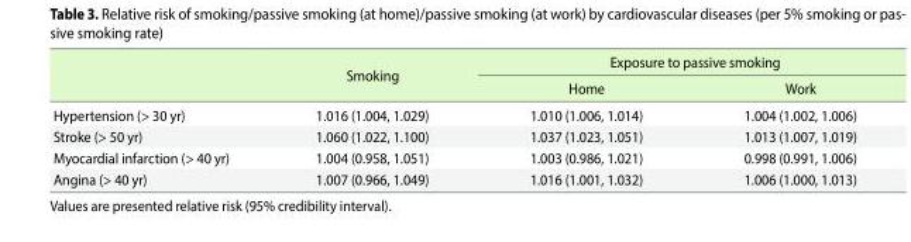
<table><thead><tr><td rowspan="2"></td><td rowspan="2">Smoking</td><td colspan="2">Exposure to passive smoking</td></tr><tr><td>Home</td><td>Work</td></tr></thead><tbody><tr><td>Hypertension (&gt; 30 yr)</td><td>1.016 (1.004, 1.029)</td><td>1.010 (1.006, 1.014)</td><td>1.004 (1.002, 1.006)</td></tr><tr><td>Stroke (&gt; 50 yr)</td><td>1.060 (1.022, 1.100)</td><td>1.037 (1.023, 1.051)</td><td>1.013 (1.007, 1.019)</td></tr><tr><td>Myocardial infarction (&gt; 40 yr)</td><td>1.004 (0.958, 1.051)</td><td>1.003 (0.986, 1.021)</td><td>0.998 (0.991, 1.006)</td></tr><tr><td>Angina (&gt; 40 yr)</td><td>1.007 (0.966, 1.049)</td><td>1.016 (1.001, 1.032)</td><td>1.006 (1.000, 1.013)</td></tr></tbody></table>